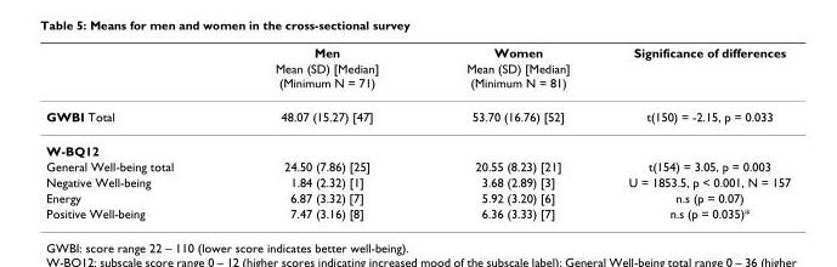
<table><thead><tr><td rowspan="2"></td><td rowspan="2">Men Mean (SD) [Median] (Minimum N = 71)</td><td rowspan="2">Women Mean (SD) [Median] (Minimum N = 81)</td><td rowspan="2">Significance of differences</td></tr><tr></tr></thead><tbody><tr><td>GWBI Total</td><td>48.07 (15.27) [47]</td><td>53.70 (16.76) [52]</td><td>t(150) = -2.15, p = 0.033</td></tr><tr><td colspan="4">W-BQ12</td></tr><tr><td>General Well-being total</td><td>24.50 (7.86) [25]</td><td>20.55 (8.23) [21]</td><td>t(154) = 3.05, p = 0.003</td></tr><tr><td>Negative Well-being</td><td>1.84 (2.32) [1]</td><td>3.68 (2.89) [3]</td><td>U = 1853.5, p &lt; 0.001, N = 157</td></tr><tr><td>Energy</td><td>6.87 (3.32) [7]</td><td>5.92 (3.20) [6]</td><td>n.s (p = 0.07)</td></tr><tr><td>Positive Well-being</td><td>7.47 (3.16) [8]</td><td>6.36 (3.33) [7]</td><td>n.s (p = 0.035)*</td></tr></tbody></table>